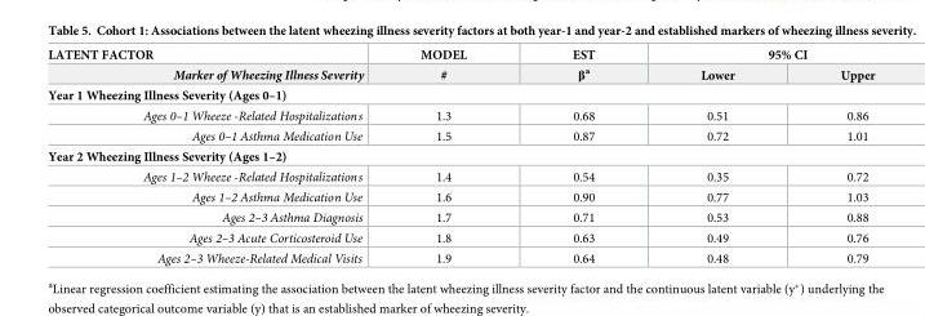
<table><thead><tr><td rowspan="2">LATENT FACTOR Marker of Wheezing Illness Severity</td><td rowspan="2">MODEL #</td><td rowspan="2">EST β<sup>a</sup></td><td colspan="2">95% CI</td></tr><tr><td>Lower</td><td>Upper</td></tr></thead><tbody><tr><td colspan="5">Year 1 Wheezing Illness Severity (Ages 0–1)</td></tr><tr><td>Ages 0–1 Wheeze -Related Hospitalizations</td><td>1.3</td><td>0.68</td><td>0.51</td><td>0.86</td></tr><tr><td>Ages 0–1 Asthma Medication Use</td><td>1.5</td><td>0.87</td><td>0.72</td><td>1.01</td></tr><tr><td colspan="5">Year 2 Wheezing Illness Severity (Ages 1–2)</td></tr><tr><td>Ages 1–2 Wheeze -Related Hospitalizations</td><td>1.4</td><td>0.54</td><td>0.35</td><td>0.72</td></tr><tr><td>Ages 1–2 Asthma Medication Use</td><td>1.6</td><td>0.90</td><td>0.77</td><td>1.03</td></tr><tr><td>Ages 2–3 Asthma Diagnosis</td><td>1.7</td><td>0.71</td><td>0.53</td><td>0.88</td></tr><tr><td>Ages 2–3 Acute Corticosteroid Use</td><td>1.8</td><td>0.63</td><td>0.49</td><td>0.76</td></tr><tr><td>Ages 2–3 Wheeze-Related Medical Visits</td><td>1.9</td><td>0.64</td><td>0.48</td><td>0.79</td></tr></tbody></table>